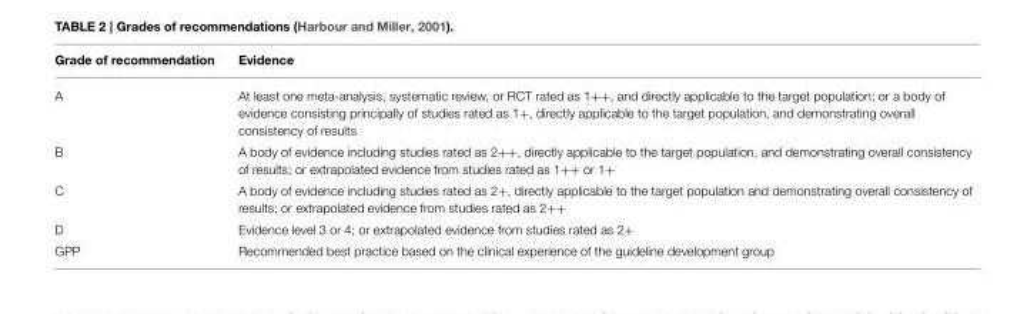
<table><thead><tr><td>Grade of recommendation</td><td>Evidence</td></tr></thead><tbody><tr><td>A</td><td>At least one meta-analysis, systematic review, or RCT rated as 1++, and directly applicable to the target population; or a body of evidence consisting principally of studies rated as 1+, directly applicable to the target population, and demonstrating overall consistency of results</td></tr><tr><td>B</td><td>A body of evidence including studies rated as 2++, directly applicable to the target population, and demonstrating overall consistency of results; or extrapolated evidence from studies rated as 1++ or 1+</td></tr><tr><td>C</td><td>A body of evidence including studies rated as 2+, directly applicable to the target population and demonstrating overall consistency of results; or extrapolated evidence from studies rated as 2++</td></tr><tr><td>D</td><td>Evidence level 3 or 4; or extrapolated evidence from studies rated as 2+</td></tr><tr><td>GPP</td><td>Recommended best practice based on the clinical experience of the guideline development group</td></tr></tbody></table>